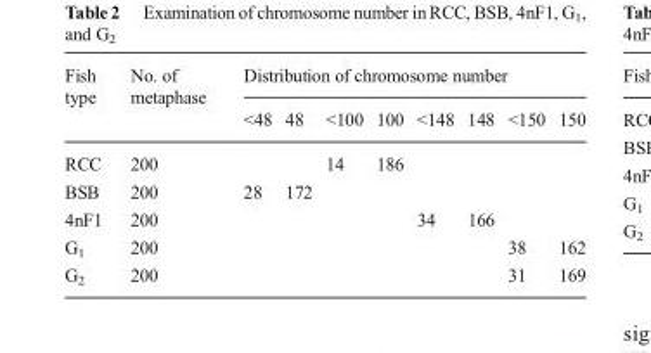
<table><thead><tr><td rowspan="2">Fish type</td><td rowspan="2">No. of metaphase</td><td colspan="8">Distribution of chromosome number</td></tr><tr><td>&lt;48</td><td>48</td><td>&lt;100</td><td>100</td><td>&lt;148</td><td>148</td><td>&lt;150</td><td>150</td></tr></thead><tbody><tr><td>RCC</td><td>200</td><td></td><td></td><td>14</td><td>186</td><td></td><td></td><td></td><td></td></tr><tr><td>BSB</td><td>200</td><td>28</td><td>172</td><td></td><td></td><td></td><td></td><td></td><td></td></tr><tr><td>4nF1</td><td>200</td><td></td><td></td><td></td><td></td><td>34</td><td>166</td><td></td><td></td></tr><tr><td>G<sub>1</sub></td><td>200</td><td></td><td></td><td></td><td></td><td></td><td></td><td>38</td><td>162</td></tr><tr><td>G<sub>2</sub></td><td>200</td><td></td><td></td><td></td><td></td><td></td><td></td><td>31</td><td>169</td></tr></tbody></table>